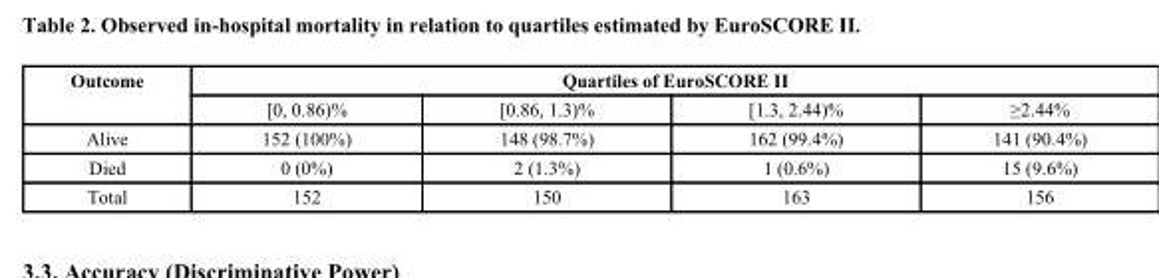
<table><thead><tr><td rowspan="2">Outcome</td><td colspan="4">Quartiles of EuroSCORE II</td></tr><tr><td>[0, 0.86)%</td><td>[0.86, 1.3)%</td><td>[1.3, 2.44)%</td><td>≥2.44%</td></tr></thead><tbody><tr><td>Alive</td><td>152 (100%)</td><td>148 (98.7%)</td><td>162 (99.4%)</td><td>141 (90.4%)</td></tr><tr><td>Died</td><td>0 (0%)</td><td>2 (1.3%)</td><td>1 (0.6%)</td><td>15 (9.6%)</td></tr><tr><td>Total</td><td>152</td><td>150</td><td>163</td><td>156</td></tr></tbody></table>